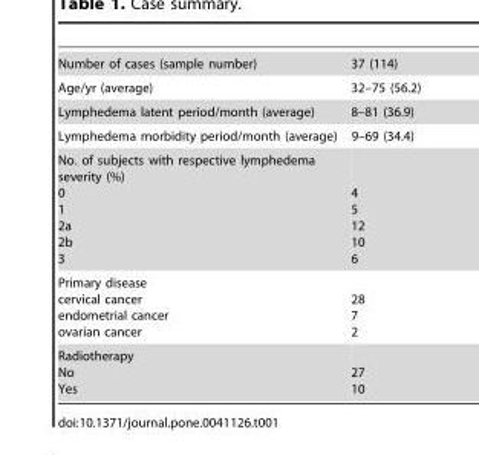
<table><tbody><tr><td>Number of cases (sample number)</td><td>37 (114)</td></tr><tr><td>Age/yr (average)</td><td>32–75 (56.2)</td></tr><tr><td>Lymphedema latent period/month (average)</td><td>8–81 (36.9)</td></tr><tr><td>Lymphedema morbidity period/month (average)</td><td>9–69 (34.4)</td></tr><tr><td>No. of subjects with respective lymphedema severity (%) 0 1 2a 2b 3</td><td>4 5 12 10 6</td></tr><tr><td>Primary disease cervical cancer endometrial cancer ovarian cancer</td><td>28 7 2</td></tr><tr><td>Radiotherapy No Yes</td><td>27 10</td></tr></tbody></table>